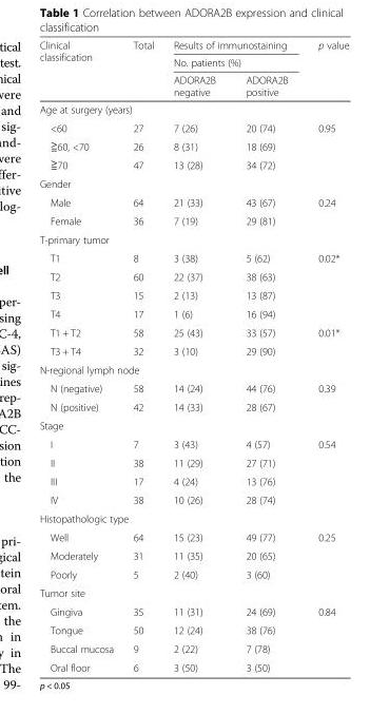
<table><thead><tr><td rowspan="3">Clinical classification</td><td rowspan="3">Total</td><td rowspan="2" colspan="2">Results of immunostaining No. patients (%)</td><td rowspan="3">p value</td></tr><tr></tr><tr><td>ADORA2B negative</td><td>ADORA2B positive</td></tr></thead><tbody><tr><td colspan="5">Age at surgery (years)</td></tr><tr><td>&lt;60</td><td>27</td><td>7 (26)</td><td>20 (74)</td><td rowspan="3">0.95</td></tr><tr><td>≧60, &lt;70</td><td>26</td><td>8 (31)</td><td>18 (69)</td></tr><tr><td>≧70</td><td>47</td><td>13 (28)</td><td>34 (72)</td></tr><tr><td colspan="5">Gender</td></tr><tr><td>Male</td><td>64</td><td>21 (33)</td><td>43 (67)</td><td rowspan="2">0.24</td></tr><tr><td>Female</td><td>36</td><td>7 (19)</td><td>29 (81)</td></tr><tr><td colspan="5">T-primary tumor</td></tr><tr><td>T1</td><td>8</td><td>3 (38)</td><td>5 (62)</td><td rowspan="4">0.02*</td></tr><tr><td>T2</td><td>60</td><td>22 (37)</td><td>38 (63)</td></tr><tr><td>T3</td><td>15</td><td>2 (13)</td><td>13 (87)</td></tr><tr><td>T4</td><td>17</td><td>1 (6)</td><td>16 (94)</td></tr><tr><td>T1 + T2</td><td>58</td><td>25 (43)</td><td>33 (57)</td><td rowspan="2">0.01*</td></tr><tr><td>T3 + T4</td><td>32</td><td>3 (10)</td><td>29 (90)</td></tr><tr><td colspan="5">N-regional lymph node</td></tr><tr><td>N (negative)</td><td>58</td><td>14 (24)</td><td>44 (76)</td><td rowspan="2">0.39</td></tr><tr><td>N (positive)</td><td>42</td><td>14 (33)</td><td>28 (67)</td></tr><tr><td colspan="5">Stage</td></tr><tr><td>I</td><td>7</td><td>3 (43)</td><td>4 (57)</td><td rowspan="4">0.54</td></tr><tr><td>II</td><td>38</td><td>11 (29)</td><td>27 (71)</td></tr><tr><td>III</td><td>17</td><td>4 (24)</td><td>13 (76)</td></tr><tr><td>IV</td><td>38</td><td>10 (26)</td><td>28 (74)</td></tr><tr><td colspan="5">Histopathologic type</td></tr><tr><td>Well</td><td>64</td><td>15 (23)</td><td>49 (77)</td><td rowspan="3">0.25</td></tr><tr><td>Moderately</td><td>31</td><td>11 (35)</td><td>20 (65)</td></tr><tr><td>Poorly</td><td>5</td><td>2 (40)</td><td>3 (60)</td></tr><tr><td colspan="5">Tumor site</td></tr><tr><td>Gingiva</td><td>35</td><td>11 (31)</td><td>24 (69)</td><td rowspan="4">0.84</td></tr><tr><td>Tongue</td><td>50</td><td>12 (24)</td><td>38 (76)</td></tr><tr><td>Buccal mucosa</td><td>9</td><td>2 (22)</td><td>7 (78)</td></tr><tr><td>Oral floor</td><td>6</td><td>3 (50)</td><td>3 (50)</td></tr></tbody></table>